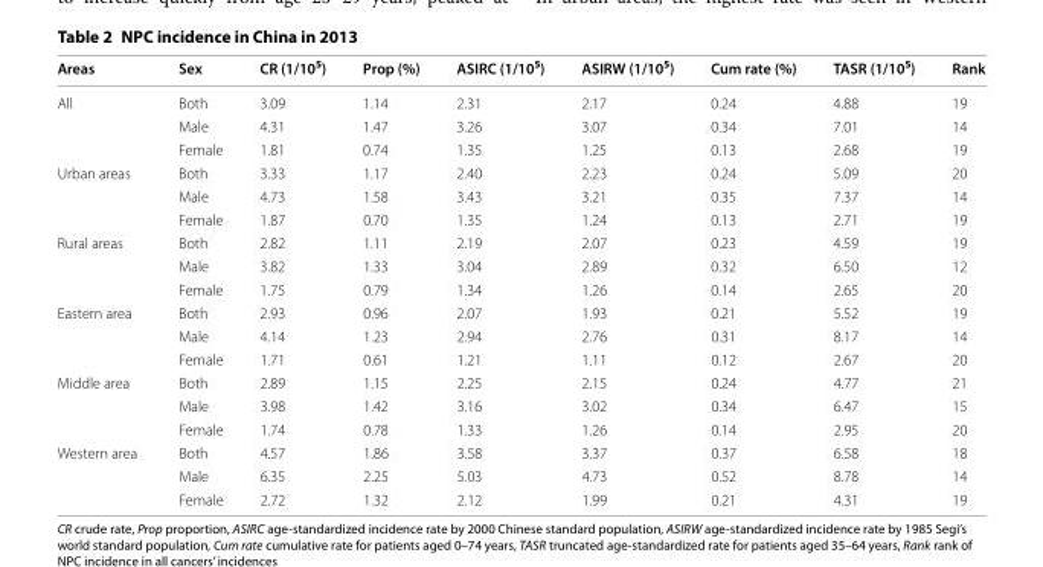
<table><thead><tr><td>Areas</td><td>Sex</td><td>CR (1/10<sup>5</sup>)</td><td>Prop (%)</td><td>ASIRC (1/10<sup>5</sup>)</td><td>ASIRW (1/10<sup>5</sup>)</td><td>Cum rate (%)</td><td>TASR (1/10<sup>5</sup>)</td><td>Rank</td></tr></thead><tbody><tr><td rowspan="3">All</td><td>Both</td><td>3.09</td><td>1.14</td><td>2.31</td><td>2.17</td><td>0.24</td><td>4.88</td><td>19</td></tr><tr><td>Male</td><td>4.31</td><td>1.47</td><td>3.26</td><td>3.07</td><td>0.34</td><td>7.01</td><td>14</td></tr><tr><td>Female</td><td>1.81</td><td>0.74</td><td>1.35</td><td>1.25</td><td>0.13</td><td>2.68</td><td>19</td></tr><tr><td rowspan="3">Urban areas</td><td>Both</td><td>3.33</td><td>1.17</td><td>2.40</td><td>2.23</td><td>0.24</td><td>5.09</td><td>20</td></tr><tr><td>Male</td><td>4.73</td><td>1.58</td><td>3.43</td><td>3.21</td><td>0.35</td><td>7.37</td><td>14</td></tr><tr><td>Female</td><td>1.87</td><td>0.70</td><td>1.35</td><td>1.24</td><td>0.13</td><td>2.71</td><td>19</td></tr><tr><td rowspan="3">Rural areas</td><td>Both</td><td>2.82</td><td>1.11</td><td>2.19</td><td>2.07</td><td>0.23</td><td>4.59</td><td>19</td></tr><tr><td>Male</td><td>3.82</td><td>1.33</td><td>3.04</td><td>2.89</td><td>0.32</td><td>6.50</td><td>12</td></tr><tr><td>Female</td><td>1.75</td><td>0.79</td><td>1.34</td><td>1.26</td><td>0.14</td><td>2.65</td><td>20</td></tr><tr><td rowspan="3">Eastern area</td><td>Both</td><td>2.93</td><td>0.96</td><td>2.07</td><td>1.93</td><td>0.21</td><td>5.52</td><td>19</td></tr><tr><td>Male</td><td>4.14</td><td>1.23</td><td>2.94</td><td>2.76</td><td>0.31</td><td>8.17</td><td>14</td></tr><tr><td>Female</td><td>1.71</td><td>0.61</td><td>1.21</td><td>1.11</td><td>0.12</td><td>2.67</td><td>20</td></tr><tr><td rowspan="3">Middle area</td><td>Both</td><td>2.89</td><td>1.15</td><td>2.25</td><td>2.15</td><td>0.24</td><td>4.77</td><td>21</td></tr><tr><td>Male</td><td>3.98</td><td>1.42</td><td>3.16</td><td>3.02</td><td>0.34</td><td>6.47</td><td>15</td></tr><tr><td>Female</td><td>1.74</td><td>0.78</td><td>1.33</td><td>1.26</td><td>0.14</td><td>2.95</td><td>20</td></tr><tr><td rowspan="3">Western area</td><td>Both</td><td>4.57</td><td>1.86</td><td>3.58</td><td>3.37</td><td>0.37</td><td>6.58</td><td>18</td></tr><tr><td>Male</td><td>6.35</td><td>2.25</td><td>5.03</td><td>4.73</td><td>0.52</td><td>8.78</td><td>14</td></tr><tr><td>Female</td><td>2.72</td><td>1.32</td><td>2.12</td><td>1.99</td><td>0.21</td><td>4.31</td><td>19</td></tr></tbody></table>